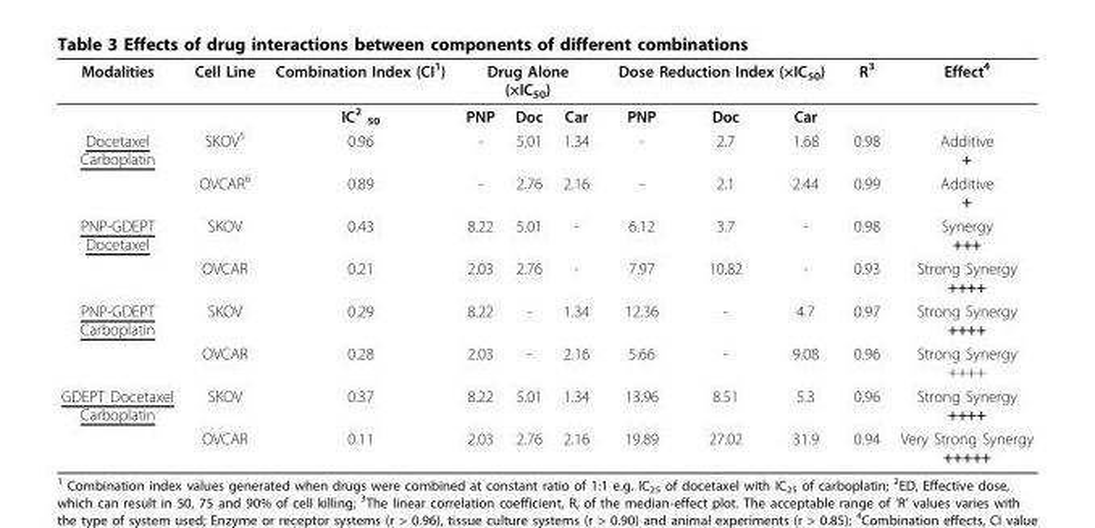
<table><thead><tr><td rowspan="2">Modalities</td><td rowspan="2">Cell Line</td><td rowspan="2">Combination Index (CI<sup>1</sup>) IC<sup>2</sup> <sub>50</sub></td><td colspan="3">Drug Alone (×IC<sub>50</sub>)</td><td colspan="3">Dose Reduction Index (×IC<sub>50</sub>)</td><td rowspan="2">R<sup>3</sup></td><td rowspan="2">Effect<sup>4</sup></td></tr><tr><td>PNP</td><td>Doc</td><td>Car</td><td>PNP</td><td>Doc</td><td>Car</td></tr></thead><tbody><tr><td rowspan="2">Docetaxel Carboplatin</td><td>SKOV<sup>5</sup></td><td>0.96</td><td>-</td><td>5.01</td><td>1.34</td><td>-</td><td>2.7</td><td>1.68</td><td>0.98</td><td>Additive +</td></tr><tr><td>OVCAR<sup>6</sup></td><td>0.89</td><td>-</td><td>2.76</td><td>2.16</td><td>-</td><td>2.1</td><td>2.44</td><td>0.99</td><td>Additive +</td></tr><tr><td rowspan="2">PNP-GDEPT Docetaxel</td><td>SKOV</td><td>0.43</td><td>8.22</td><td>5.01</td><td>-</td><td>6.12</td><td>3.7</td><td>-</td><td>0.98</td><td>Synergy +++</td></tr><tr><td>OVCAR</td><td>0.21</td><td>2.03</td><td>2.76</td><td>-</td><td>7.97</td><td>10.82</td><td>-</td><td>0.93</td><td>Strong Synergy ++++</td></tr><tr><td rowspan="2">PNP-GDEPT Carboplatin</td><td>SKOV</td><td>0.29</td><td>8.22</td><td>-</td><td>1.34</td><td>12.36</td><td>-</td><td>4.7</td><td>0.97</td><td>Strong Synergy ++++</td></tr><tr><td>OVCAR</td><td>0.28</td><td>2.03</td><td>-</td><td>2.16</td><td>5.66</td><td>-</td><td>9.08</td><td>0.96</td><td>Strong Synergy ++++</td></tr><tr><td rowspan="2">GDEPT Docetaxel Carboplatin</td><td>SKOV</td><td>0.37</td><td>8.22</td><td>5.01</td><td>1.34</td><td>13.96</td><td>8.51</td><td>5.3</td><td>0.96</td><td>Strong Synergy ++++</td></tr><tr><td>OVCAR</td><td>0.11</td><td>2.03</td><td>2.76</td><td>2.16</td><td>19.89</td><td>27.02</td><td>31.9</td><td>0.94</td><td>Very Strong Synergy +++++</td></tr></tbody></table>